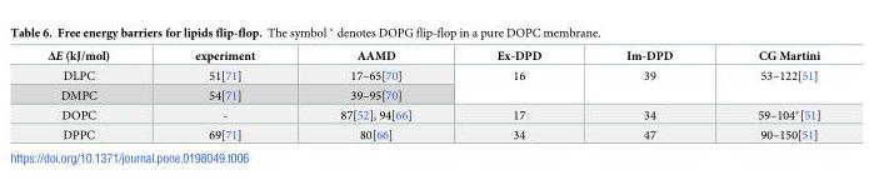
<table><thead><tr><td>ΔE (kJ/mol)</td><td>experiment</td><td>AAMD</td><td>Ex-DPD</td><td>Im-DPD</td><td>CG Martini</td></tr></thead><tbody><tr><td>DLPC</td><td>51[71]</td><td>17–65[70]</td><td rowspan="2">16</td><td rowspan="2">39</td><td rowspan="2">53–122[51]</td></tr><tr><td>DMPC</td><td>54[71]</td><td>39–95[70]</td></tr><tr><td>DOPC</td><td>-</td><td>87[52], 94[66]</td><td>17</td><td>34</td><td>59–104*[51]</td></tr><tr><td>DPPC</td><td>69[71]</td><td>80[66]</td><td>34</td><td>47</td><td>90–150[51]</td></tr></tbody></table>